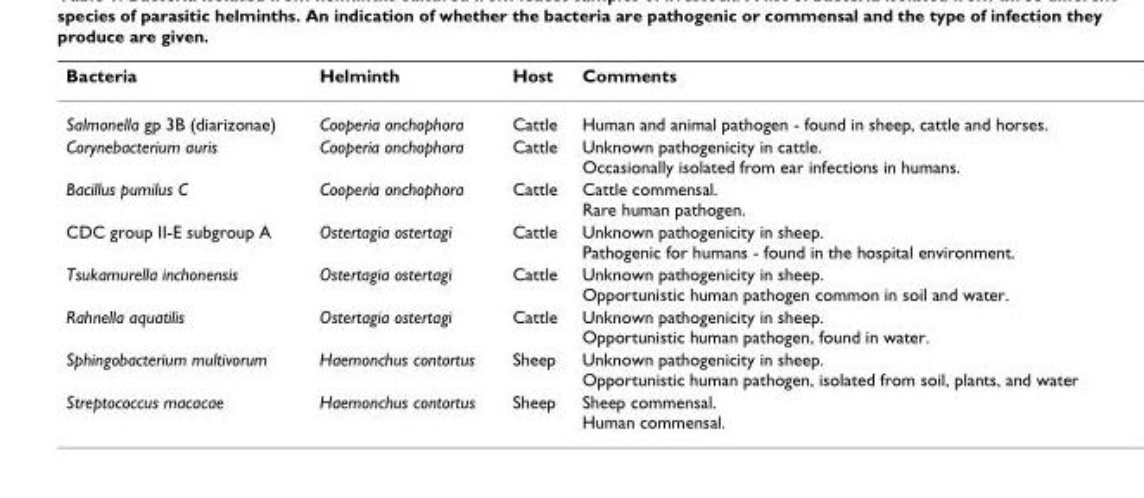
<table><thead><tr><td>Bacteria</td><td>Helminth</td><td>Host</td><td>Comments</td></tr></thead><tbody><tr><td>Salmonella gp 3B (diarizonae)</td><td>Cooperia onchophora</td><td>Cattle</td><td>Human and animal pathogen - found in sheep, cattle and horses.</td></tr><tr><td>Corynebacterium auris</td><td>Cooperia onchophora</td><td>Cattle</td><td>Unknown pathogenicity in cattle. Occasionally isolated from ear infections in humans.</td></tr><tr><td>Bacillus pumilus C</td><td>Cooperia onchophora</td><td>Cattle</td><td>Cattle commensal. Rare human pathogen.</td></tr><tr><td>CDC group II-E subgroup A</td><td>Ostertagia ostertagi</td><td>Cattle</td><td>Unknown pathogenicity in sheep. Pathogenic for humans - found in the hospital environment.</td></tr><tr><td>Tsukamurella inchonensis</td><td>Ostertagia ostertagi</td><td>Cattle</td><td>Unknown pathogenicity in sheep. Opportunistic human pathogen common in soil and water.</td></tr><tr><td>Rahnella aquatilis</td><td>Ostertagia ostertagi</td><td>Cattle</td><td>Unknown pathogenicity in sheep. Opportunistic human pathogen, found in water.</td></tr><tr><td>Sphingobacterium multivorum</td><td>Haemonchus contortus</td><td>Sheep</td><td>Unknown pathogenicity in sheep. Opportunistic human pathogen, isolated from soil, plants, and water</td></tr><tr><td>Streptococcus macacae</td><td>Haemonchus contortus</td><td>Sheep</td><td>Sheep commensal. Human commensal.</td></tr></tbody></table>